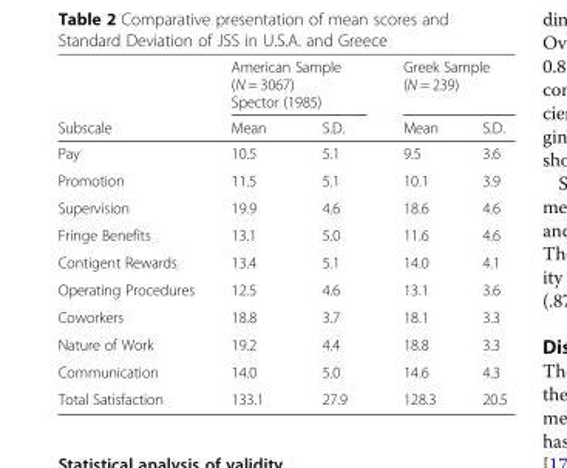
<table><thead><tr><td rowspan="2">Subscale</td><td colspan="2">American Sample (N = 3067) Spector (1985)</td><td colspan="2">Greek Sample (N = 239)</td></tr><tr><td>Mean</td><td>S.D.</td><td>Mean</td><td>S.D.</td></tr></thead><tbody><tr><td>Pay</td><td>10.5</td><td>5.1</td><td>9.5</td><td>3.6</td></tr><tr><td>Promotion</td><td>11.5</td><td>5.1</td><td>10.1</td><td>3.9</td></tr><tr><td>Supervision</td><td>19.9</td><td>4.6</td><td>18.6</td><td>4.6</td></tr><tr><td>Fringe Benefits</td><td>13.1</td><td>5.0</td><td>11.6</td><td>4.6</td></tr><tr><td>Contigent Rewards</td><td>13.4</td><td>5.1</td><td>14.0</td><td>4.1</td></tr><tr><td>Operating Procedures</td><td>12.5</td><td>4.6</td><td>13.1</td><td>3.6</td></tr><tr><td>Coworkers</td><td>18.8</td><td>3.7</td><td>18.1</td><td>3.3</td></tr><tr><td>Nature of Work</td><td>19.2</td><td>4.4</td><td>18.8</td><td>3.3</td></tr><tr><td>Communication</td><td>14.0</td><td>5.0</td><td>14.6</td><td>4.3</td></tr><tr><td>Total Satisfaction</td><td>133.1</td><td>27.9</td><td>128.3</td><td>20.5</td></tr></tbody></table>